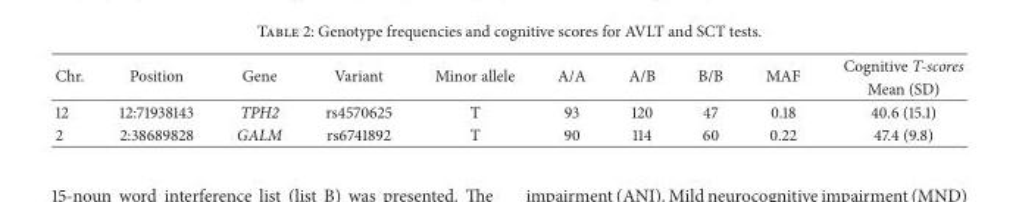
<table><thead><tr><td rowspan="2">Chr.</td><td rowspan="2">Position</td><td rowspan="2">Gene</td><td rowspan="2">Variant</td><td rowspan="2">Minor allele</td><td rowspan="2">A/A</td><td rowspan="2">A/B</td><td rowspan="2">B/B</td><td rowspan="2">MAF</td><td rowspan="2">Cognitive T-scores Mean (SD)</td></tr><tr></tr></thead><tbody><tr><td>12</td><td>12:71938143</td><td>TPH2</td><td>rs4570625</td><td>T</td><td>93</td><td>120</td><td>47</td><td>0.18</td><td>40.6 (15.1)</td></tr><tr><td>2</td><td>2:38689828</td><td>GALM</td><td>rs6741892</td><td>T</td><td>90</td><td>114</td><td>60</td><td>0.22</td><td>47.4 (9.8)</td></tr></tbody></table>